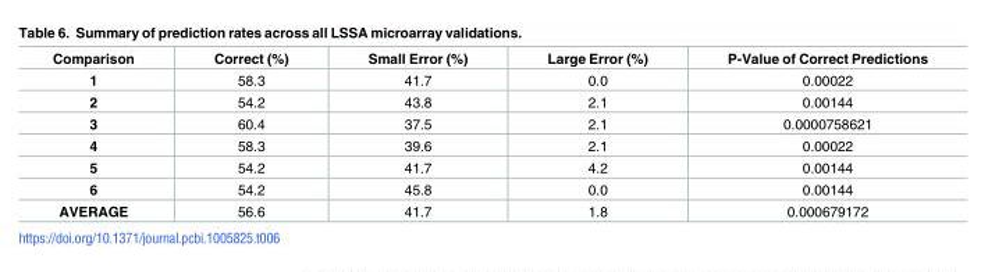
<table><thead><tr><td>Comparison</td><td>Correct (%)</td><td>Small Error (%)</td><td>Large Error (%)</td><td>P-Value of Correct Predictions</td></tr></thead><tbody><tr><td>1</td><td>58.3</td><td>41.7</td><td>0.0</td><td>0.00022</td></tr><tr><td>2</td><td>54.2</td><td>43.8</td><td>2.1</td><td>0.00144</td></tr><tr><td>3</td><td>60.4</td><td>37.5</td><td>2.1</td><td>0.0000758621</td></tr><tr><td>4</td><td>58.3</td><td>39.6</td><td>2.1</td><td>0.00022</td></tr><tr><td>5</td><td>54.2</td><td>41.7</td><td>4.2</td><td>0.00144</td></tr><tr><td>6</td><td>54.2</td><td>45.8</td><td>0.0</td><td>0.00144</td></tr><tr><td>AVERAGE</td><td>56.6</td><td>41.7</td><td>1.8</td><td>0.000679172</td></tr></tbody></table>